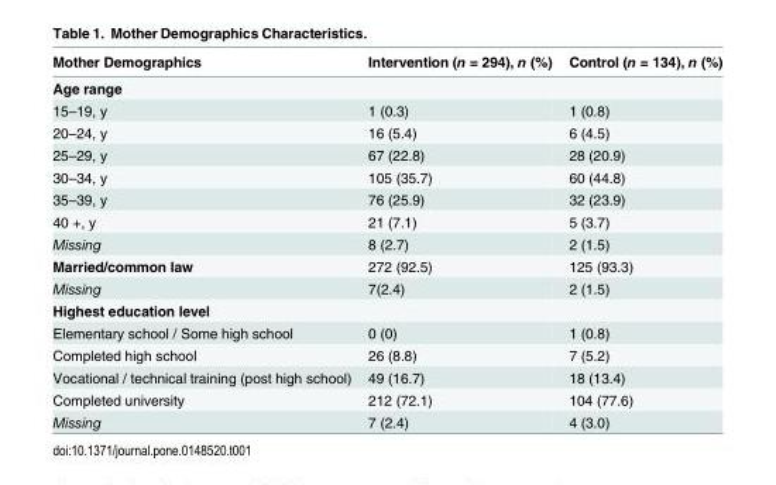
<table><thead><tr><td>Mother Demographics</td><td>Intervention (n = 294), n (%)</td><td>Control (n = 134), n (%)</td></tr></thead><tbody><tr><td colspan="3">Age range</td></tr><tr><td>15–19, y</td><td>1 (0.3)</td><td>1 (0.8)</td></tr><tr><td>20–24, y</td><td>16 (5.4)</td><td>6 (4.5)</td></tr><tr><td>25–29, y</td><td>67 (22.8)</td><td>28 (20.9)</td></tr><tr><td>30–34, y</td><td>105 (35.7)</td><td>60 (44.8)</td></tr><tr><td>35–39, y</td><td>76 (25.9)</td><td>32 (23.9)</td></tr><tr><td>40 +, y</td><td>21 (7.1)</td><td>5 (3.7)</td></tr><tr><td>Missing</td><td>8 (2.7)</td><td>2 (1.5)</td></tr><tr><td>Married/common law</td><td>272 (92.5)</td><td>125 (93.3)</td></tr><tr><td>Missing</td><td>7(2.4)</td><td>2 (1.5)</td></tr><tr><td colspan="3">Highest education level</td></tr><tr><td>Elementary school / Some high school</td><td>0 (0)</td><td>1 (0.8)</td></tr><tr><td>Completed high school</td><td>26 (8.8)</td><td>7 (5.2)</td></tr><tr><td>Vocational / technical training (post high school)</td><td>49 (16.7)</td><td>18 (13.4)</td></tr><tr><td>Completed university</td><td>212 (72.1)</td><td>104 (77.6)</td></tr><tr><td>Missing</td><td>7 (2.4)</td><td>4 (3.0)</td></tr></tbody></table>